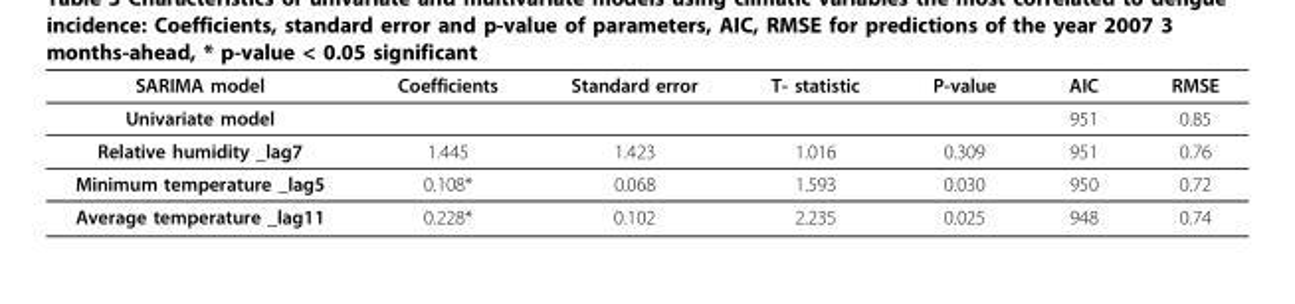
<table><thead><tr><td>SARIMA model</td><td>Coefficients</td><td>Standard error</td><td>T- statistic</td><td>P-value</td><td>AIC</td><td>RMSE</td></tr></thead><tbody><tr><td>Univariate model</td><td></td><td></td><td></td><td></td><td>951</td><td>0.85</td></tr><tr><td>Relative humidity _lag7</td><td>1.445</td><td>1.423</td><td>1.016</td><td>0.309</td><td>951</td><td>0.76</td></tr><tr><td>Minimum temperature _lag5</td><td>0.108*</td><td>0.068</td><td>1.593</td><td>0.030</td><td>950</td><td>0.72</td></tr><tr><td>Average temperature _lag11</td><td>0.228*</td><td>0.102</td><td>2.235</td><td>0.025</td><td>948</td><td>0.74</td></tr></tbody></table>